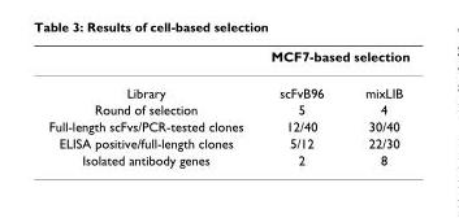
<table><thead><tr><td rowspan="2">Library</td><td colspan="2">MCF7-based selection</td></tr><tr><td>scFvB96</td><td>mixLIB</td></tr></thead><tbody><tr><td>Round of selection</td><td>5</td><td>4</td></tr><tr><td>Full-length scFvs/PCR-tested clones</td><td>12/40</td><td>30/40</td></tr><tr><td>ELISA positive/full-length clones</td><td>5/12</td><td>22/30</td></tr><tr><td>Isolated antibody genes</td><td>2</td><td>8</td></tr></tbody></table>